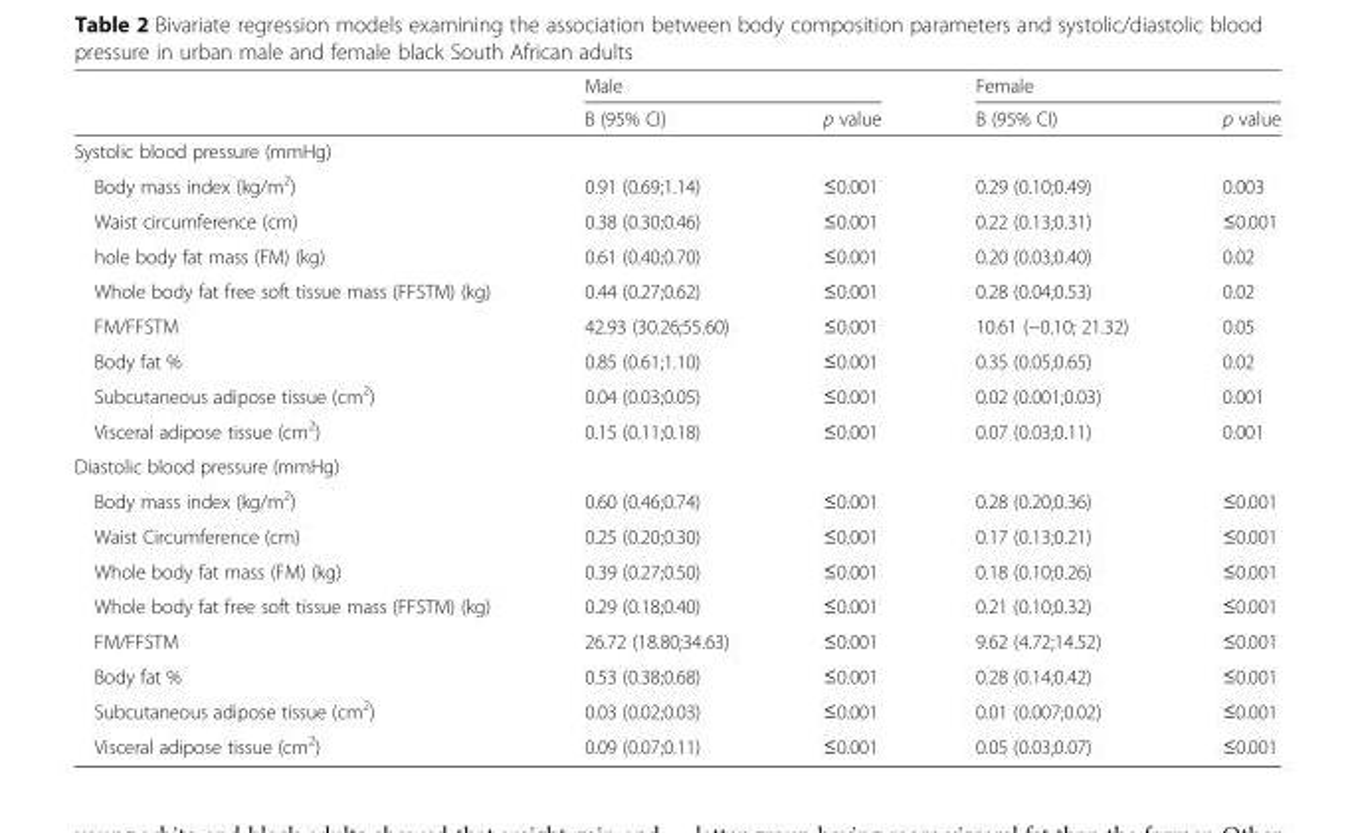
<table><thead><tr><td rowspan="2"></td><td colspan="2">Male</td><td colspan="2">Female</td></tr><tr><td>B (95% CI)</td><td>p value</td><td>B (95% CI)</td><td>p value</td></tr></thead><tbody><tr><td colspan="5">Systolic blood pressure (mmHg)</td></tr><tr><td>Body mass index (kg/m<sup>2</sup>)</td><td>0.91 (0.69;1.14)</td><td>≤0.001</td><td>0.29 (0.10;0.49)</td><td>0.003</td></tr><tr><td>Waist circumference (cm)</td><td>0.38 (0.30;0.46)</td><td>≤0.001</td><td>0.22 (0.13;0.31)</td><td>≤0.001</td></tr><tr><td>hole body fat mass (FM) (kg)</td><td>0.61 (0.40;0.70)</td><td>≤0.001</td><td>0.20 (0.03;0.40)</td><td>0.02</td></tr><tr><td>Whole body fat free soft tissue mass (FFSTM) (kg)</td><td>0.44 (0.27;0.62)</td><td>≤0.001</td><td>0.28 (0.04;0.53)</td><td>0.02</td></tr><tr><td>FM/FFSTM</td><td>42.93 (30.26;55.60)</td><td>≤0.001</td><td>10.61 (−0.10; 21.32)</td><td>0.05</td></tr><tr><td>Body fat %</td><td>0.85 (0.61;1.10)</td><td>≤0.001</td><td>0.35 (0.05;0.65)</td><td>0.02</td></tr><tr><td>Subcutaneous adipose tissue (cm<sup>2</sup>)</td><td>0.04 (0.03;0.05)</td><td>≤0.001</td><td>0.02 (0.001;0.03)</td><td>0.001</td></tr><tr><td>Visceral adipose tissue (cm<sup>2</sup>)</td><td>0.15 (0.11;0.18)</td><td>≤0.001</td><td>0.07 (0.03;0.11)</td><td>0.001</td></tr><tr><td colspan="5">Diastolic blood pressure (mmHg)</td></tr><tr><td>Body mass index (kg/m<sup>2</sup>)</td><td>0.60 (0.46;0.74)</td><td>≤0.001</td><td>0.28 (0.20;0.36)</td><td>≤0.001</td></tr><tr><td>Waist Circumference (cm)</td><td>0.25 (0.20;0.30)</td><td>≤0.001</td><td>0.17 (0.13;0.21)</td><td>≤0.001</td></tr><tr><td>Whole body fat mass (FM) (kg)</td><td>0.39 (0.27;0.50)</td><td>≤0.001</td><td>0.18 (0.10;0.26)</td><td>≤0.001</td></tr><tr><td>Whole body fat free soft tissue mass (FFSTM) (kg)</td><td>0.29 (0.18;0.40)</td><td>≤0.001</td><td>0.21 (0.10;0.32)</td><td>≤0.001</td></tr><tr><td>FM/FFSTM</td><td>26.72 (18.80;34.63)</td><td>≤0.001</td><td>9.62 (4.72;14.52)</td><td>≤0.001</td></tr><tr><td>Body fat %</td><td>0.53 (0.38;0.68)</td><td>≤0.001</td><td>0.28 (0.14;0.42)</td><td>≤0.001</td></tr><tr><td>Subcutaneous adipose tissue (cm<sup>2</sup>)</td><td>0.03 (0.02;0.03)</td><td>≤0.001</td><td>0.01 (0.007;0.02)</td><td>≤0.001</td></tr><tr><td>Visceral adipose tissue (cm<sup>2</sup>)</td><td>0.09 (0.07;0.11)</td><td>≤0.001</td><td>0.05 (0.03;0.07)</td><td>≤0.001</td></tr></tbody></table>